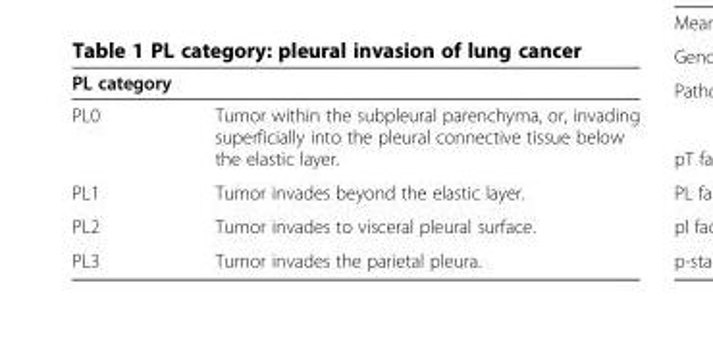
<table><thead><tr><td>PL category</td><td></td></tr></thead><tbody><tr><td>PL0</td><td>Tumor within the subpleural parenchyma, or, invading superficially into the pleural connective tissue below the elastic layer.</td></tr><tr><td>PL1</td><td>Tumor invades beyond the elastic layer.</td></tr><tr><td>PL2</td><td>Tumor invades to visceral pleural surface.</td></tr><tr><td>PL3</td><td>Tumor invades the parietal pleura.</td></tr></tbody></table>